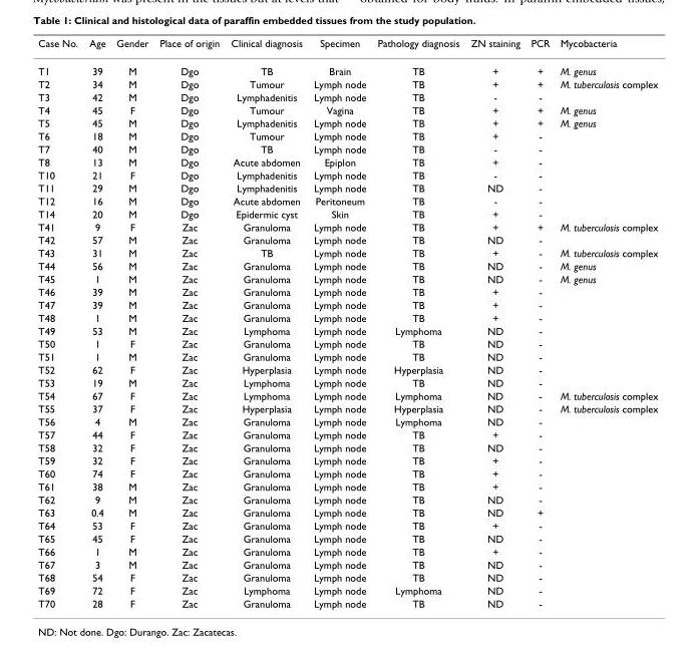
<table><thead><tr><td>Case No.</td><td>Age</td><td>Gender</td><td>Place of origin</td><td>Clinical diagnosis</td><td>Specimen</td><td>Pathology diagnosis</td><td>ZN staining</td><td>PCR</td><td>Mycobacteria</td></tr></thead><tbody><tr><td>T1</td><td>39</td><td>M</td><td>Dgo</td><td>TB</td><td>Brain</td><td>TB</td><td>+</td><td>+</td><td>M. genus</td></tr><tr><td>T2</td><td>34</td><td>M</td><td>Dgo</td><td>Tumour</td><td>Lymph node</td><td>TB</td><td>+</td><td>+</td><td>M. tuberculosis complex</td></tr><tr><td>T3</td><td>42</td><td>M</td><td>Dgo</td><td>Lymphadenitis</td><td>Lymph node</td><td>TB</td><td>-</td><td>-</td><td></td></tr><tr><td>T4</td><td>45</td><td>F</td><td>Dgo</td><td>Tumour</td><td>Vagina</td><td>TB</td><td>+</td><td>+</td><td>M. genus</td></tr><tr><td>T5</td><td>45</td><td>M</td><td>Dgo</td><td>Lymphadenitis</td><td>Lymph node</td><td>TB</td><td>+</td><td>+</td><td>M. genus</td></tr><tr><td>T6</td><td>18</td><td>M</td><td>Dgo</td><td>Tumour</td><td>Lymph node</td><td>TB</td><td>+</td><td>-</td><td></td></tr><tr><td>T7</td><td>40</td><td>M</td><td>Dgo</td><td>TB</td><td>Lymph node</td><td>TB</td><td>-</td><td>-</td><td></td></tr><tr><td>T8</td><td>13</td><td>M</td><td>Dgo</td><td>Acute abdomen</td><td>Epiplon</td><td>TB</td><td>+</td><td>-</td><td></td></tr><tr><td>T10</td><td>21</td><td>F</td><td>Dgo</td><td>Lymphadenitis</td><td>Lymph node</td><td>TB</td><td>-</td><td>-</td><td></td></tr><tr><td>T11</td><td>29</td><td>M</td><td>Dgo</td><td>Lymphadenitis</td><td>Lymph node</td><td>TB</td><td>ND</td><td>-</td><td></td></tr><tr><td>T12</td><td>16</td><td>M</td><td>Dgo</td><td>Acute abdomen</td><td>Peritoneum</td><td>TB</td><td>-</td><td>-</td><td></td></tr><tr><td>T14</td><td>20</td><td>M</td><td>Dgo</td><td>Epidermic cyst</td><td>Skin</td><td>TB</td><td>+</td><td>-</td><td></td></tr><tr><td>T41</td><td>9</td><td>F</td><td>Zac</td><td>Granuloma</td><td>Lymph node</td><td>TB</td><td>+</td><td>+</td><td>M. tuberculosis complex</td></tr><tr><td>T42</td><td>57</td><td>M</td><td>Zac</td><td>Granuloma</td><td>Lymph node</td><td>TB</td><td>ND</td><td>-</td><td></td></tr><tr><td>T43</td><td>31</td><td>M</td><td>Zac</td><td>TB</td><td>Lymph node</td><td>TB</td><td>+</td><td>-</td><td>M. tuberculosis complex</td></tr><tr><td>T44</td><td>56</td><td>M</td><td>Zac</td><td>Granuloma</td><td>Lymph node</td><td>TB</td><td>ND</td><td>-</td><td>M. genus</td></tr><tr><td>T45</td><td>1</td><td>M</td><td>Zac</td><td>Granuloma</td><td>Lymph node</td><td>TB</td><td>ND</td><td>-</td><td>M. genus</td></tr><tr><td>T46</td><td>39</td><td>M</td><td>Zac</td><td>Granuloma</td><td>Lymph node</td><td>TB</td><td>+</td><td>-</td><td></td></tr><tr><td>T47</td><td>39</td><td>M</td><td>Zac</td><td>Granuloma</td><td>Lymph node</td><td>TB</td><td>+</td><td>-</td><td></td></tr><tr><td>T48</td><td>1</td><td>M</td><td>Zac</td><td>Granuloma</td><td>Lymph node</td><td>TB</td><td>+</td><td>-</td><td></td></tr><tr><td>T49</td><td>53</td><td>M</td><td>Zac</td><td>Lymphoma</td><td>Lymph node</td><td>Lymphoma</td><td>ND</td><td>-</td><td></td></tr><tr><td>T50</td><td>1</td><td>F</td><td>Zac</td><td>Granuloma</td><td>Lymph node</td><td>TB</td><td>ND</td><td>-</td><td></td></tr><tr><td>T51</td><td>1</td><td>M</td><td>Zac</td><td>Granuloma</td><td>Lymph node</td><td>TB</td><td>ND</td><td>-</td><td></td></tr><tr><td>T52</td><td>62</td><td>F</td><td>Zac</td><td>Hyperplasia</td><td>Lymph node</td><td>Hyperplasia</td><td>ND</td><td>-</td><td></td></tr><tr><td>T53</td><td>19</td><td>M</td><td>Zac</td><td>Lymphoma</td><td>Lymph node</td><td>TB</td><td>ND</td><td>-</td><td></td></tr><tr><td>T54</td><td>67</td><td>F</td><td>Zac</td><td>Lymphoma</td><td>Lymph node</td><td>Lymphoma</td><td>ND</td><td>-</td><td>M. tuberculosis complex</td></tr><tr><td>T55</td><td>37</td><td>F</td><td>Zac</td><td>Hyperplasia</td><td>Lymph node</td><td>Hyperplasia</td><td>ND</td><td>-</td><td>M. tuberculosis complex</td></tr><tr><td>T56</td><td>4</td><td>M</td><td>Zac</td><td>Granuloma</td><td>Lymph node</td><td>Lymphoma</td><td>ND</td><td>-</td><td></td></tr><tr><td>T57</td><td>44</td><td>F</td><td>Zac</td><td>Granuloma</td><td>Lymph node</td><td>TB</td><td>+</td><td>-</td><td></td></tr><tr><td>T58</td><td>32</td><td>F</td><td>Zac</td><td>Granuloma</td><td>Lymph node</td><td>TB</td><td>ND</td><td>-</td><td></td></tr><tr><td>T59</td><td>32</td><td>F</td><td>Zac</td><td>Granuloma</td><td>Lymph node</td><td>TB</td><td>+</td><td>-</td><td></td></tr><tr><td>T60</td><td>74</td><td>F</td><td>Zac</td><td>Granuloma</td><td>Lymph node</td><td>TB</td><td>+</td><td>-</td><td></td></tr><tr><td>T61</td><td>38</td><td>M</td><td>Zac</td><td>Granuloma</td><td>Lymph node</td><td>TB</td><td>+</td><td>-</td><td></td></tr><tr><td>T62</td><td>9</td><td>M</td><td>Zac</td><td>Granuloma</td><td>Lymph node</td><td>TB</td><td>ND</td><td>-</td><td></td></tr><tr><td>T63</td><td>0.4</td><td>M</td><td>Zac</td><td>Granuloma</td><td>Lymph node</td><td>TB</td><td>ND</td><td>+</td><td></td></tr><tr><td>T64</td><td>53</td><td>F</td><td>Zac</td><td>Granuloma</td><td>Lymph node</td><td>TB</td><td>+</td><td>-</td><td></td></tr><tr><td>T65</td><td>45</td><td>F</td><td>Zac</td><td>Granuloma</td><td>Lymph node</td><td>TB</td><td>ND</td><td>-</td><td></td></tr><tr><td>T66</td><td>1</td><td>M</td><td>Zac</td><td>Granuloma</td><td>Lymph node</td><td>TB</td><td>+</td><td>-</td><td></td></tr><tr><td>T67</td><td>3</td><td>M</td><td>Zac</td><td>Granuloma</td><td>Lymph node</td><td>TB</td><td>ND</td><td>-</td><td></td></tr><tr><td>T68</td><td>54</td><td>F</td><td>Zac</td><td>Granuloma</td><td>Lymph node</td><td>TB</td><td>ND</td><td>-</td><td></td></tr><tr><td>T69</td><td>72</td><td>F</td><td>Zac</td><td>Lymphoma</td><td>Lymph node</td><td>Lymphoma</td><td>ND</td><td>-</td><td></td></tr><tr><td>T70</td><td>28</td><td>F</td><td>Zac</td><td>Granuloma</td><td>Lymph node</td><td>TB</td><td>ND</td><td>-</td><td></td></tr></tbody></table>